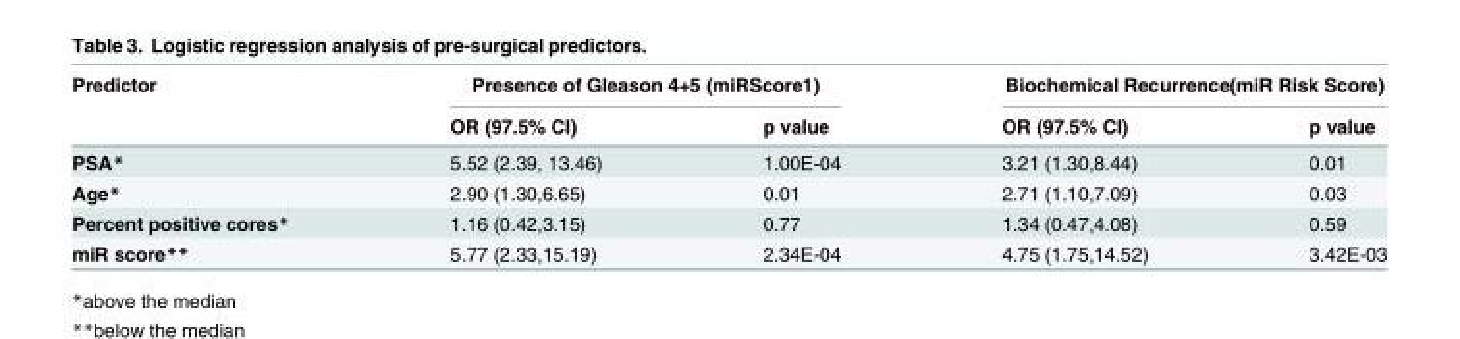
<table><thead><tr><td rowspan="2">Predictor</td><td colspan="2">Presence of Gleason 4+5 (miRScore1)</td><td colspan="2">Biochemical Recurrence(miR Risk Score)</td></tr><tr><td>OR (97.5% CI)</td><td>p value</td><td>OR (97.5% CI)</td><td>p value</td></tr></thead><tbody><tr><td>PSA*</td><td>5.52 (2.39, 13.46)</td><td>1.00E-04</td><td>3.21 (1.30,8.44)</td><td>0.01</td></tr><tr><td>Age*</td><td>2.90 (1.30,6.65)</td><td>0.01</td><td>2.71 (1.10,7.09)</td><td>0.03</td></tr><tr><td>Percent positive cores*</td><td>1.16 (0.42,3.15)</td><td>0.77</td><td>1.34 (0.47,4.08)</td><td>0.59</td></tr><tr><td>miR score**</td><td>5.77 (2.33,15.19)</td><td>2.34E-04</td><td>4.75 (1.75,14.52)</td><td>3.42E-03</td></tr></tbody></table>